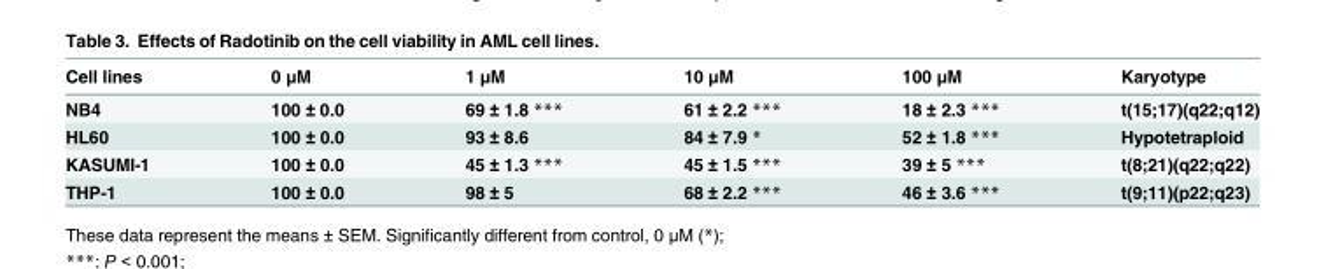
<table><thead><tr><td>Cell lines</td><td>0 μM</td><td>1 μM</td><td>10 μM</td><td>100 μM</td><td>Karyotype</td></tr></thead><tbody><tr><td>NB4</td><td>100 ± 0.0</td><td>69 ± 1.8 ***</td><td>61 ± 2.2 ***</td><td>18 ± 2.3 ***</td><td>t(15;17)(q22;q12)</td></tr><tr><td>HL60</td><td>100 ± 0.0</td><td>93 ± 8.6</td><td>84 ± 7.9 *</td><td>52 ± 1.8 ***</td><td>Hypotetraploid</td></tr><tr><td>KASUMI-1</td><td>100 ± 0.0</td><td>45 ± 1.3 ***</td><td>45 ± 1.5 ***</td><td>39 ± 5 ***</td><td>t(8;21)(q22;q22)</td></tr><tr><td>THP-1</td><td>100 ± 0.0</td><td>98 ± 5</td><td>68 ± 2.2 ***</td><td>46 ± 3.6 ***</td><td>t(9;11)(p22;q23)</td></tr></tbody></table>